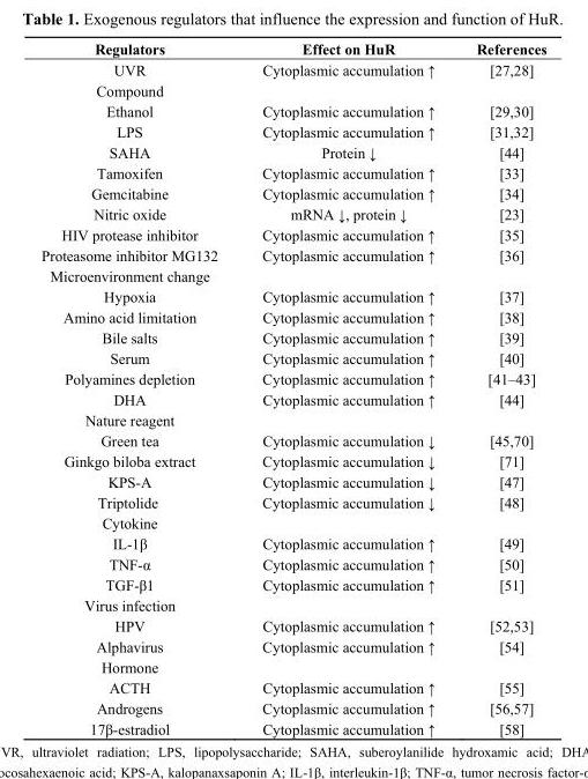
<table><thead><tr><td>Regulators</td><td>Effect on HuR</td><td>References</td></tr></thead><tbody><tr><td>UVR</td><td>Cytoplasmic accumulation ↑</td><td>[27,28]</td></tr><tr><td colspan="3">Compound</td></tr><tr><td>Ethanol</td><td>Cytoplasmic accumulation ↑</td><td>[29,30]</td></tr><tr><td>LPS</td><td>Cytoplasmic accumulation ↑</td><td>[31,32]</td></tr><tr><td>SAHA</td><td>Protein ↓</td><td>[44]</td></tr><tr><td>Tamoxifen</td><td>Cytoplasmic accumulation ↑</td><td>[33]</td></tr><tr><td>Gemcitabine</td><td>Cytoplasmic accumulation ↑</td><td>[34]</td></tr><tr><td>Nitric oxide</td><td>mRNA ↓, protein ↓</td><td>[23]</td></tr><tr><td>HIV protease inhibitor</td><td>Cytoplasmic accumulation ↑</td><td>[35]</td></tr><tr><td>Proteasome inhibitor MG132</td><td>Cytoplasmic accumulation ↑</td><td>[36]</td></tr><tr><td colspan="3">Microenvironment change</td></tr><tr><td>Hypoxia</td><td>Cytoplasmic accumulation ↑</td><td>[37]</td></tr><tr><td>Amino acid limitation</td><td>Cytoplasmic accumulation ↑</td><td>[38]</td></tr><tr><td>Bile salts</td><td>Cytoplasmic accumulation ↑</td><td>[39]</td></tr><tr><td>Serum</td><td>Cytoplasmic accumulation ↑</td><td>[40]</td></tr><tr><td>Polyamines depletion</td><td>Cytoplasmic accumulation ↑</td><td>[41–43]</td></tr><tr><td>DHA</td><td>Cytoplasmic accumulation ↑</td><td>[44]</td></tr><tr><td colspan="3">Nature reagent</td></tr><tr><td>Green tea</td><td>Cytoplasmic accumulation ↓</td><td>[45,70]</td></tr><tr><td>Ginkgo biloba extract</td><td>Cytoplasmic accumulation ↓</td><td>[71]</td></tr><tr><td>KPS-A</td><td>Cytoplasmic accumulation ↓</td><td>[47]</td></tr><tr><td>Triptolide</td><td>Cytoplasmic accumulation ↓</td><td>[48]</td></tr><tr><td colspan="3">Cytokine</td></tr><tr><td>IL-1β</td><td>Cytoplasmic accumulation ↑</td><td>[49]</td></tr><tr><td>TNF-α</td><td>Cytoplasmic accumulation ↑</td><td>[50]</td></tr><tr><td>TGF-β1</td><td>Cytoplasmic accumulation ↑</td><td>[51]</td></tr><tr><td colspan="3">Virus infection</td></tr><tr><td>HPV</td><td>Cytoplasmic accumulation ↑</td><td>[52,53]</td></tr><tr><td>Alphavirus</td><td>Cytoplasmic accumulation ↑</td><td>[54]</td></tr><tr><td colspan="3">Hormone</td></tr><tr><td>ACTH</td><td>Cytoplasmic accumulation ↑</td><td>[55]</td></tr><tr><td>Androgens</td><td>Cytoplasmic accumulation ↑</td><td>[56,57]</td></tr><tr><td>17β-estradiol</td><td>Cytoplasmic accumulation ↑</td><td>[58]</td></tr></tbody></table>